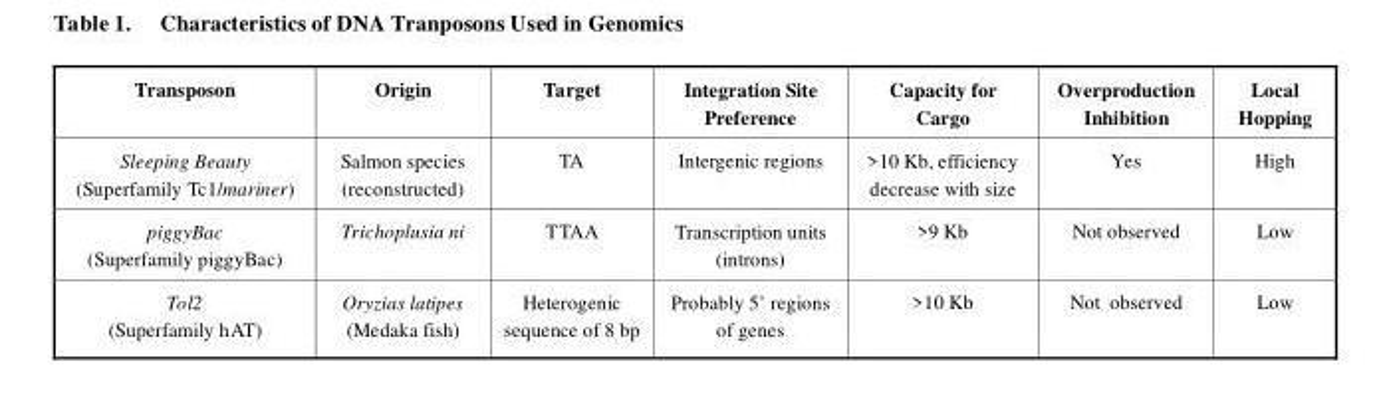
<table><thead><tr><td>Transposon</td><td>Origin</td><td>Target</td><td>Integration Site Preference</td><td>Capacity for Cargo</td><td>Overproduction Inhibition</td><td>Local Hopping</td></tr></thead><tbody><tr><td>Sleeping Beauty (Superfamily Tc1/mariner)</td><td>Salmon species (reconstructed)</td><td>TA</td><td>Intergenic regions</td><td>&gt;10 Kb, efficiency decrease with size</td><td>Yes</td><td>High</td></tr><tr><td>piggyBac (Superfamily piggyBac)</td><td>Trichoplusia ni</td><td>TTAA</td><td>Transcription units (introns)</td><td>&gt;9 Kb</td><td>Not observed</td><td>Low</td></tr><tr><td>Tol2 (Superfamily hAT)</td><td>Oryzias latipes (Medaka fish)</td><td>Heterogenic sequence of 8 bp</td><td>Probably 5’ regions of genes</td><td>&gt;10 Kb</td><td>Not observed</td><td>Low</td></tr></tbody></table>